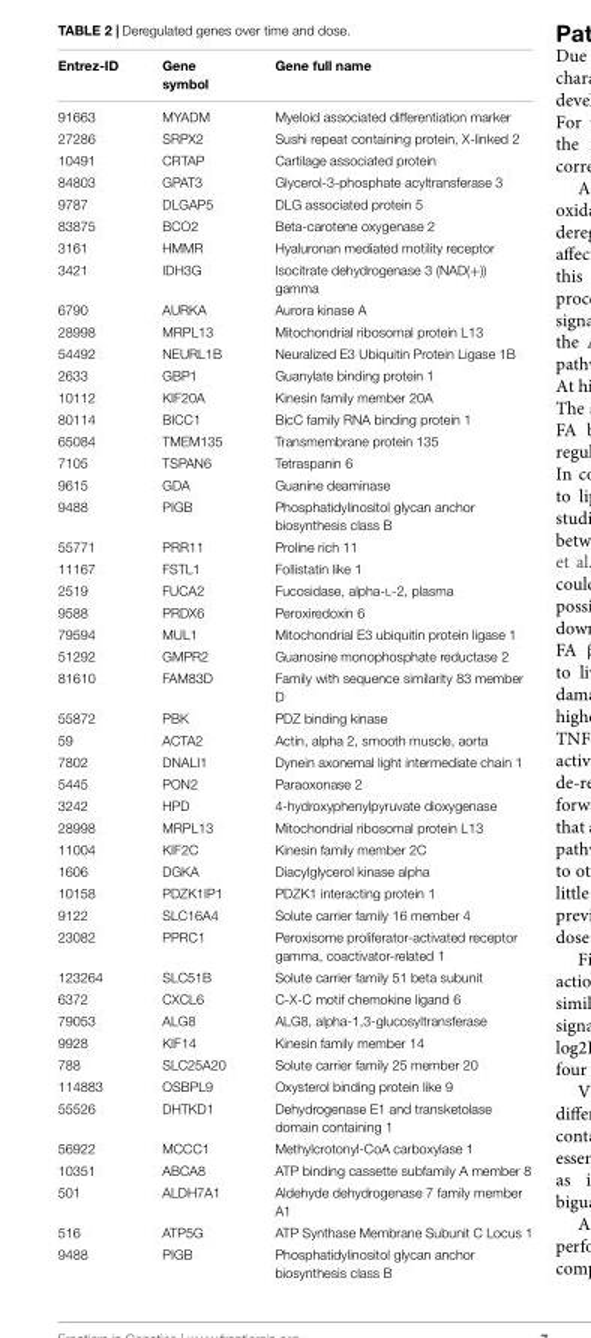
<table><thead><tr><td>Entrez-ID</td><td>Gene symbol</td><td>Gene full name</td></tr></thead><tbody><tr><td>91663</td><td>MYADM</td><td>Myeloid associated differentiation marker</td></tr><tr><td>27286</td><td>SRPX2</td><td>Sushi repeat containing protein, X-linked 2</td></tr><tr><td>10491</td><td>CRTAP</td><td>Cartilage associated protein</td></tr><tr><td>84803</td><td>GPAT3</td><td>Glycerol-3-phosphate acyltransferase 3</td></tr><tr><td>9787</td><td>DLGAP5</td><td>DLG associated protein 5</td></tr><tr><td>83875</td><td>BCO2</td><td>Beta-carotene oxygenase 2</td></tr><tr><td>3161</td><td>HMMR</td><td>Hyaluronan mediated motility receptor</td></tr><tr><td>3421</td><td>IDH3G</td><td>Isocitrate dehydrogenase 3 (NAD(+)) gamma</td></tr><tr><td>6790</td><td>AURKA</td><td>Aurora kinase A</td></tr><tr><td>28998</td><td>MRPL13</td><td>Mitochondrial ribosomal protein L13</td></tr><tr><td>54492</td><td>NEURL1B</td><td>Neuralized E3 Ubiquitin Protein Ligase 1B</td></tr><tr><td>2633</td><td>GBP1</td><td>Guanylate binding protein 1</td></tr><tr><td>10112</td><td>KIF20A</td><td>Kinesin family member 20A</td></tr><tr><td>80114</td><td>BICC1</td><td>BicC family RNA binding protein 1</td></tr><tr><td>65084</td><td>TMEM135</td><td>Transmembrane protein 135</td></tr><tr><td>7105</td><td>TSPAN6</td><td>Tetraspanin 6</td></tr><tr><td>9615</td><td>GDA</td><td>Guanine deaminase</td></tr><tr><td>9488</td><td>PIGB</td><td>Phosphatidylinositol glycan anchor biosynthesis class B</td></tr><tr><td>55771</td><td>PRR11</td><td>Proline rich 11</td></tr><tr><td>11167</td><td>FSTL1</td><td>Follistatin like 1</td></tr><tr><td>2519</td><td>FUCA2</td><td>Fucosidase, alpha-L-2, plasma</td></tr><tr><td>9588</td><td>PRDX6</td><td>Peroxiredoxin 6</td></tr><tr><td>79594</td><td>MUL1</td><td>Mitochondrial E3 ubiquitin protein ligase 1</td></tr><tr><td>51292</td><td>GMPR2</td><td>Guanosine monophosphate reductase 2</td></tr><tr><td>81610</td><td>FAM83D</td><td>Family with sequence similarity 83 member D</td></tr><tr><td>55872</td><td>PBK</td><td>PDZ binding kinase</td></tr><tr><td>59</td><td>ACTA2</td><td>Actin, alpha 2, smooth muscle, aorta</td></tr><tr><td>7802</td><td>DNALI1</td><td>Dynein axonemal light intermediate chain 1</td></tr><tr><td>5445</td><td>PON2</td><td>Paraoxonase 2</td></tr><tr><td>3242</td><td>HPD</td><td>4-hydroxyphenylpyruvate dioxygenase</td></tr><tr><td>28998</td><td>MRPL13</td><td>Mitochondrial ribosomal protein L13</td></tr><tr><td>11004</td><td>KIF2C</td><td>Kinesin family member 2C</td></tr><tr><td>1606</td><td>DGKA</td><td>Diacylglycerol kinase alpha</td></tr><tr><td>10158</td><td>PDZK1IP1</td><td>PDZK1 interacting protein 1</td></tr><tr><td>9122</td><td>SLC16A4</td><td>Solute carrier family 16 member 4</td></tr><tr><td>23082</td><td>PPRC1</td><td>Peroxisome proliferator-activated receptor gamma, coactivator-related 1</td></tr><tr><td>123264</td><td>SLC51B</td><td>Solute carrier family 51 beta subunit</td></tr><tr><td>6372</td><td>CXCL6</td><td>C-X-C motif chemokine ligand 6</td></tr><tr><td>79053</td><td>ALG8</td><td>ALG8, alpha-1,3-glucosyltransferase</td></tr><tr><td>9928</td><td>KIF14</td><td>Kinesin family member 14</td></tr><tr><td>788</td><td>SLC25A20</td><td>Solute carrier family 25 member 20</td></tr><tr><td>114883</td><td>OSBPL9</td><td>Oxysterol binding protein like 9</td></tr><tr><td>55526</td><td>DHTKD1</td><td>Dehydrogenase E1 and transketolase domain containing 1</td></tr><tr><td>56922</td><td>MCCC1</td><td>Methylcrotonyl-CoA carboxylase 1</td></tr><tr><td>10351</td><td>ABCA8</td><td>ATP binding cassette subfamily A member 8</td></tr><tr><td>501</td><td>ALDH7A1</td><td>Aldehyde dehydrogenase 7 family member A1</td></tr><tr><td>516</td><td>ATP5G</td><td>ATP Synthase Membrane Subunit C Locus 1</td></tr><tr><td>9488</td><td>PIGB</td><td>Phosphatidylinositol glycan anchor biosynthesis class B</td></tr></tbody></table>